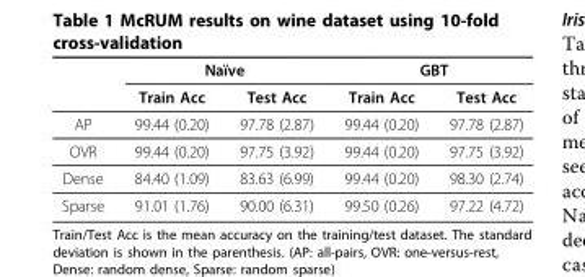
<table><thead><tr><td rowspan="2"></td><td colspan="2">Naïve</td><td colspan="2">GBT</td></tr><tr><td>Train Acc</td><td>Test Acc</td><td>Train Acc</td><td>Test Acc</td></tr></thead><tbody><tr><td>AP</td><td>99.44 (0.20)</td><td>97.78 (2.87)</td><td>99.44 (0.20)</td><td>97.78 (2.87)</td></tr><tr><td>OVR</td><td>99.44 (0.20)</td><td>97.75 (3.92)</td><td>99.44 (0.20)</td><td>97.75 (3.92)</td></tr><tr><td>Dense</td><td>84.40 (1.09)</td><td>83.63 (6.99)</td><td>99.44 (0.20)</td><td>98.30 (2.74)</td></tr><tr><td>Sparse</td><td>91.01 (1.76)</td><td>90.00 (6.31)</td><td>99.50 (0.26)</td><td>97.22 (4.72)</td></tr></tbody></table>